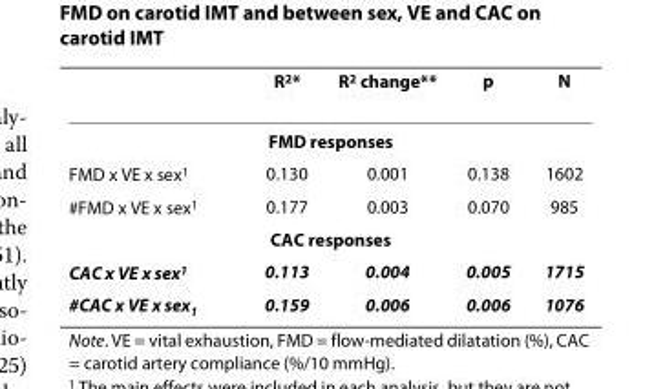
<table><thead><tr><td></td><td>R<sup>2</sup>*</td><td>R<sup>2</sup> change**</td><td>p</td><td>N</td></tr></thead><tbody><tr><td colspan="5">FMD responses</td></tr><tr><td>FMD x VE x sex<sup>1</sup></td><td>0.130</td><td>0.001</td><td>0.138</td><td>1602</td></tr><tr><td>#FMD x VE x sex<sup>1</sup></td><td>0.177</td><td>0.003</td><td>0.070</td><td>985</td></tr><tr><td colspan="5">CAC responses</td></tr><tr><td>CAC x VE x sex<sup>1</sup></td><td>0.113</td><td>0.004</td><td>0.005</td><td>1715</td></tr><tr><td>#CAC x VE x sex<sub>1</sub></td><td>0.159</td><td>0.006</td><td>0.006</td><td>1076</td></tr></tbody></table>